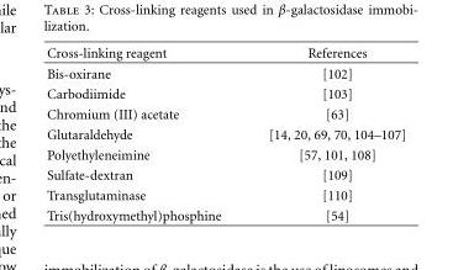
<table><thead><tr><td>Cross-linking reagent</td><td>References</td></tr></thead><tbody><tr><td>Bis-oxirane</td><td>[102]</td></tr><tr><td>Carbodiimide</td><td>[103]</td></tr><tr><td>Chromium (III) acetate</td><td>[63]</td></tr><tr><td>Glutaraldehyde</td><td>[14, 20, 69, 70, 104–107]</td></tr><tr><td>Polyethyleneimine</td><td>[57, 101, 108]</td></tr><tr><td>Sulfate-dextran</td><td>[109]</td></tr><tr><td>Transglutaminase</td><td>[110]</td></tr><tr><td>Tris(hydroxymethyl)phosphine</td><td>[54]</td></tr></tbody></table>